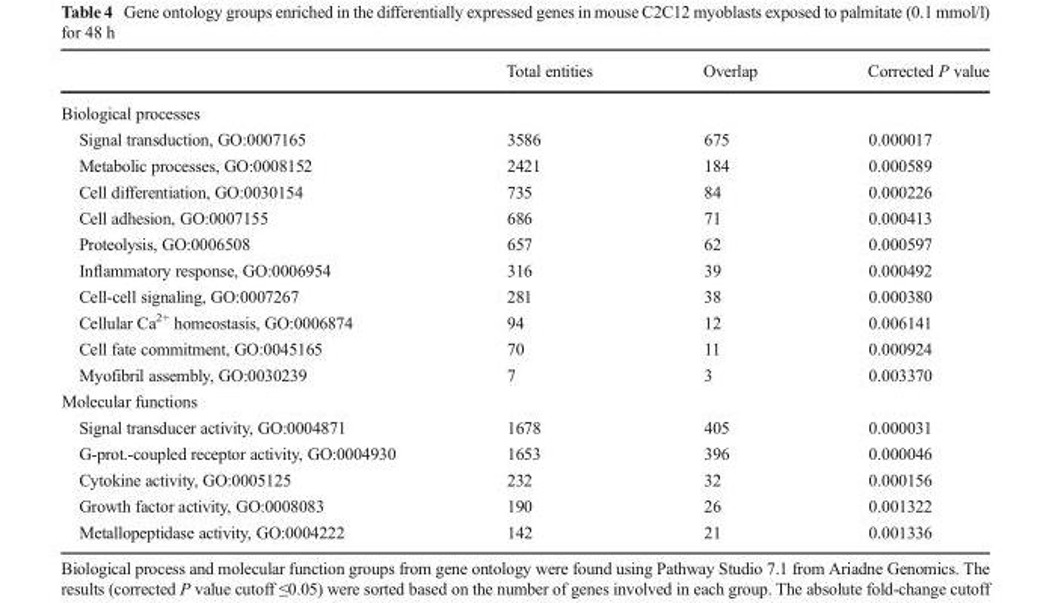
<table><thead><tr><td></td><td>Total entities</td><td>Overlap</td><td>Corrected P value</td></tr></thead><tbody><tr><td colspan="4">Biological processes</td></tr><tr><td>Signal transduction, GO:0007165</td><td>3586</td><td>675</td><td>0.000017</td></tr><tr><td>Metabolic processes, GO:0008152</td><td>2421</td><td>184</td><td>0.000589</td></tr><tr><td>Cell differentiation, GO:0030154</td><td>735</td><td>84</td><td>0.000226</td></tr><tr><td>Cell adhesion, GO:0007155</td><td>686</td><td>71</td><td>0.000413</td></tr><tr><td>Proteolysis, GO:0006508</td><td>657</td><td>62</td><td>0.000597</td></tr><tr><td>Inflammatory response, GO:0006954</td><td>316</td><td>39</td><td>0.000492</td></tr><tr><td>Cell-cell signaling, GO:0007267</td><td>281</td><td>38</td><td>0.000380</td></tr><tr><td>Cellular Ca<sup>2+</sup> homeostasis, GO:0006874</td><td>94</td><td>12</td><td>0.006141</td></tr><tr><td>Cell fate commitment, GO:0045165</td><td>70</td><td>11</td><td>0.000924</td></tr><tr><td>Myofibril assembly, GO:0030239</td><td>7</td><td>3</td><td>0.003370</td></tr><tr><td colspan="4">Molecular functions</td></tr><tr><td>Signal transducer activity, GO:0004871</td><td>1678</td><td>405</td><td>0.000031</td></tr><tr><td>G-prot.-coupled receptor activity, GO:0004930</td><td>1653</td><td>396</td><td>0.000046</td></tr><tr><td>Cytokine activity, GO:0005125</td><td>232</td><td>32</td><td>0.000156</td></tr><tr><td>Growth factor activity, GO:0008083</td><td>190</td><td>26</td><td>0.001322</td></tr><tr><td>Metallopeptidase activity, GO:0004222</td><td>142</td><td>21</td><td>0.001336</td></tr></tbody></table>